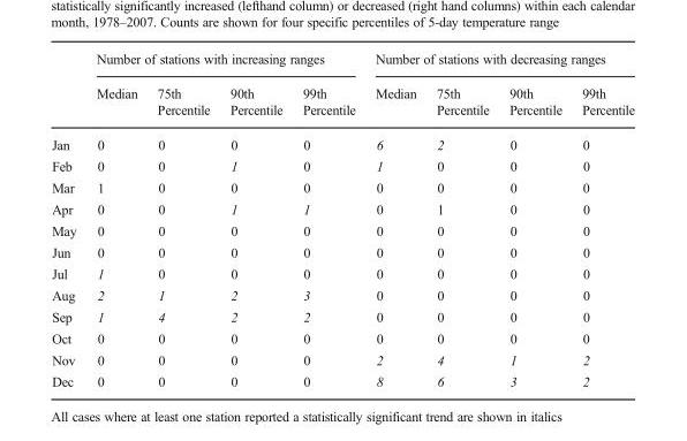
<table><thead><tr><td rowspan="2"></td><td colspan="4">Number of stations with increasing ranges</td><td colspan="4">Number of stations with decreasing ranges</td></tr><tr><td>Median</td><td>75th Percentile</td><td>90th Percentile</td><td>99th Percentile</td><td>Median</td><td>75th Percentile</td><td>90th Percentile</td><td>99th Percentile</td></tr></thead><tbody><tr><td>Jan</td><td>0</td><td>0</td><td>0</td><td>0</td><td>6</td><td>2</td><td>0</td><td>0</td></tr><tr><td>Feb</td><td>0</td><td>0</td><td>1</td><td>0</td><td>1</td><td>0</td><td>0</td><td>0</td></tr><tr><td>Mar</td><td>1</td><td>0</td><td>0</td><td>0</td><td>0</td><td>0</td><td>0</td><td>0</td></tr><tr><td>Apr</td><td>0</td><td>0</td><td>1</td><td>1</td><td>0</td><td>1</td><td>0</td><td>0</td></tr><tr><td>May</td><td>0</td><td>0</td><td>0</td><td>0</td><td>0</td><td>0</td><td>0</td><td>0</td></tr><tr><td>Jun</td><td>0</td><td>0</td><td>0</td><td>0</td><td>0</td><td>0</td><td>0</td><td>0</td></tr><tr><td>Jul</td><td>1</td><td>0</td><td>0</td><td>0</td><td>0</td><td>0</td><td>0</td><td>0</td></tr><tr><td>Aug</td><td>2</td><td>1</td><td>2</td><td>3</td><td>0</td><td>0</td><td>0</td><td>0</td></tr><tr><td>Sep</td><td>1</td><td>4</td><td>2</td><td>2</td><td>0</td><td>0</td><td>0</td><td>0</td></tr><tr><td>Oct</td><td>0</td><td>0</td><td>0</td><td>0</td><td>0</td><td>0</td><td>0</td><td>0</td></tr><tr><td>Nov</td><td>0</td><td>0</td><td>0</td><td>0</td><td>2</td><td>4</td><td>1</td><td>2</td></tr><tr><td>Dec</td><td>0</td><td>0</td><td>0</td><td>0</td><td>8</td><td>6</td><td>3</td><td>2</td></tr></tbody></table>